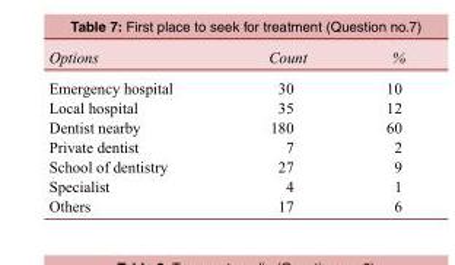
<table><tbody><tr><td>Options</td><td>Count</td><td>%</td></tr><tr><td>Emergency hospital</td><td>30</td><td>10</td></tr><tr><td>Local hospital</td><td>35</td><td>12</td></tr><tr><td>Dentist nearby</td><td>180</td><td>60</td></tr><tr><td>Private dentist</td><td>7</td><td>2</td></tr><tr><td>School of dentistry</td><td>27</td><td>9</td></tr><tr><td>Specialist</td><td>4</td><td>1</td></tr><tr><td>Others</td><td>17</td><td>6</td></tr></tbody></table>